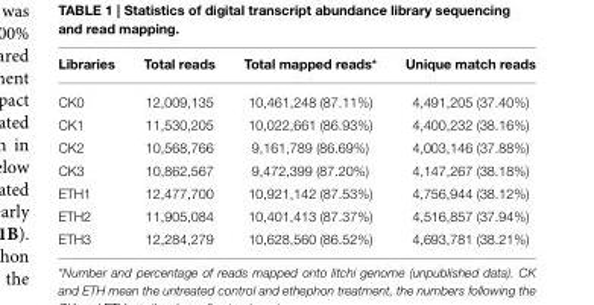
<table><thead><tr><td>Libraries</td><td>Total reads</td><td>Total mapped reads*</td><td>Unique match reads</td></tr></thead><tbody><tr><td>CK0</td><td>12,009,135</td><td>10,461,248 (87.11%)</td><td>4,491,205 (37.40%)</td></tr><tr><td>CK1</td><td>11,530,205</td><td>10,022,661 (86.93%)</td><td>4,400,232 (38.16%)</td></tr><tr><td>CK2</td><td>10,568,766</td><td>9,161,789 (86.69%)</td><td>4,003,146 (37.88%)</td></tr><tr><td>CK3</td><td>10,862,567</td><td>9,472,399 (87.20%)</td><td>4,147,267 (38.18%)</td></tr><tr><td>ETH1</td><td>12,477,700</td><td>10,921,142 (87.53%)</td><td>4,756,944 (38.12%)</td></tr><tr><td>ETH2</td><td>11,905,084</td><td>10,401,413 (87.37%)</td><td>4,516,857 (37.94%)</td></tr><tr><td>ETH3</td><td>12,284,279</td><td>10,628,560 (86.52%)</td><td>4,693,781 (38.21%)</td></tr></tbody></table>